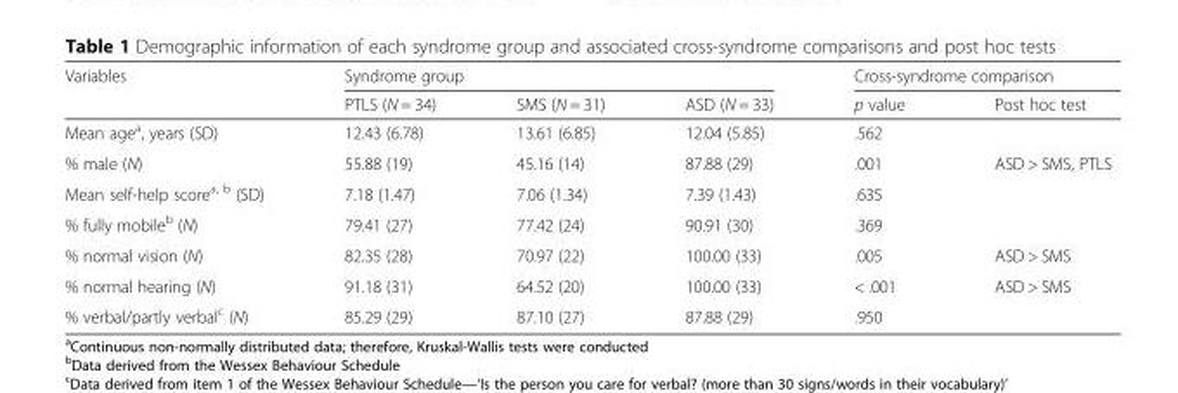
<table><thead><tr><td rowspan="2">Variables</td><td colspan="3">Syndrome group</td><td colspan="2">Cross-syndrome comparison</td></tr><tr><td>PTLS (N = 34)</td><td>SMS (N = 31)</td><td>ASD (N = 33)</td><td>p value</td><td>Post hoc test</td></tr></thead><tbody><tr><td>Mean age<sup>a</sup>, years (SD)</td><td>12.43 (6.78)</td><td>13.61 (6.85)</td><td>12.04 (5.85)</td><td>.562</td><td></td></tr><tr><td>% male (N)</td><td>55.88 (19)</td><td>45.16 (14)</td><td>87.88 (29)</td><td>.001</td><td>ASD &gt; SMS, PTLS</td></tr><tr><td>Mean self-help score<sup>a, b</sup> (SD)</td><td>7.18 (1.47)</td><td>7.06 (1.34)</td><td>7.39 (1.43)</td><td>.635</td><td></td></tr><tr><td>% fully mobile<sup>b</sup> (N)</td><td>79.41 (27)</td><td>77.42 (24)</td><td>90.91 (30)</td><td>.369</td><td></td></tr><tr><td>% normal vision (N)</td><td>82.35 (28)</td><td>70.97 (22)</td><td>100.00 (33)</td><td>.005</td><td>ASD &gt; SMS</td></tr><tr><td>% normal hearing (N)</td><td>91.18 (31)</td><td>64.52 (20)</td><td>100.00 (33)</td><td>&lt; .001</td><td>ASD &gt; SMS</td></tr><tr><td>% verbal/partly verbal<sup>c</sup> (N)</td><td>85.29 (29)</td><td>87.10 (27)</td><td>87.88 (29)</td><td>.950</td><td></td></tr></tbody></table>